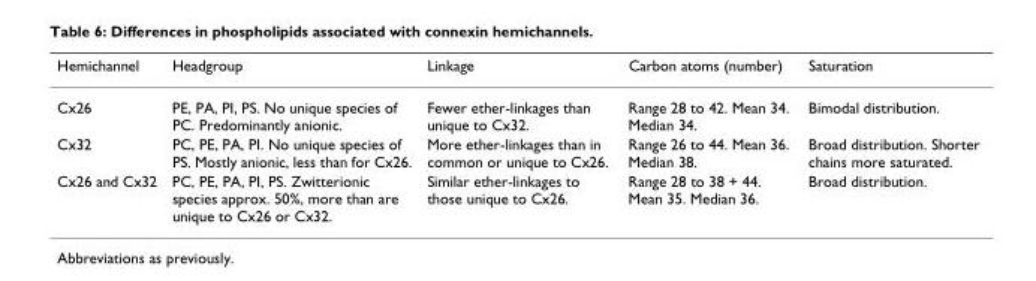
<table><thead><tr><td>Hemichannel</td><td>Headgroup</td><td>Linkage</td><td>Carbon atoms (number)</td><td>Saturation</td></tr></thead><tbody><tr><td>Cx26</td><td>PE, PA, PI, PS. No unique species of PC. Predominantly anionic.</td><td>Fewer ether-linkages than unique to Cx32.</td><td>Range 28 to 42. Mean 34. Median 34.</td><td>Bimodal distribution.</td></tr><tr><td>Cx32</td><td>PC, PE, PA, PI. No unique species of PS. Mostly anionic, less than for Cx26.</td><td>More ether-linkages than in common or unique to Cx26.</td><td>Range 26 to 44. Mean 36. Median 38.</td><td>Broad distribution. Shorter chains more saturated.</td></tr><tr><td>Cx26 and Cx32</td><td>PC, PE, PA, PI, PS. Zwitterionic species approx. 50%, more than are unique to Cx26 or Cx32.</td><td>Similar ether-linkages to those unique to Cx26.</td><td>Range 28 to 38 + 44. Mean 35. Median 36.</td><td>Broad distribution.</td></tr></tbody></table>